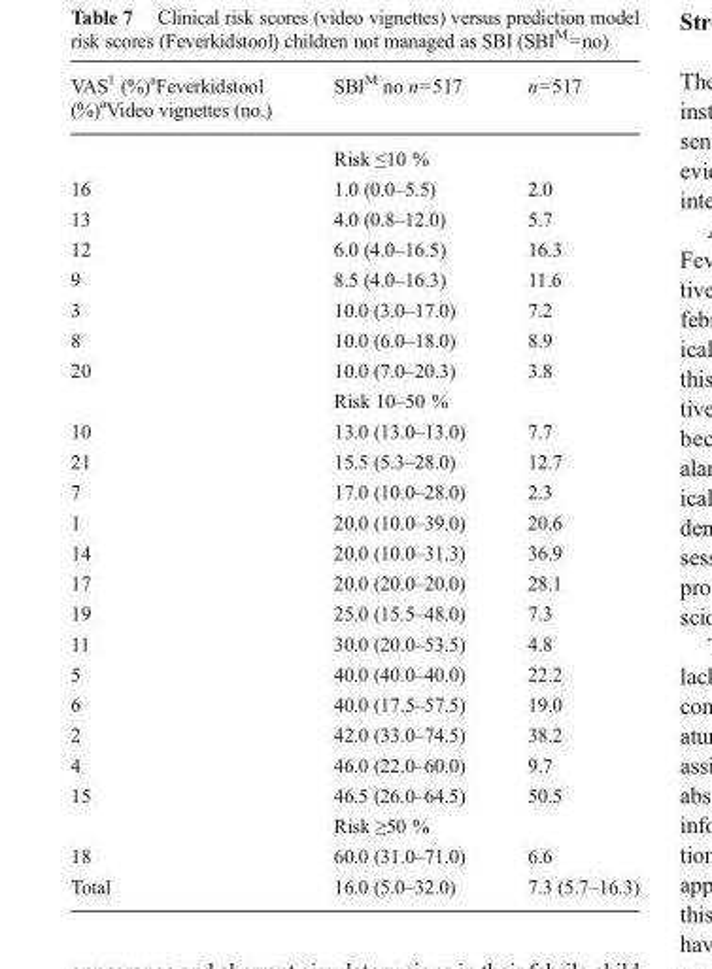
<table><thead><tr><td>VAS<sup>1</sup> (%)<sup>a</sup>Feverkidstool (%)<sup>a</sup>Video vignettes (no.)</td><td>SBI<sup>M</sup> no n=517</td><td>n=517</td></tr></thead><tbody><tr><td></td><td>Risk ≤10 %</td><td></td></tr><tr><td>16</td><td>1.0 (0.0–5.5)</td><td>2.0</td></tr><tr><td>13</td><td>4.0 (0.8–12.0)</td><td>5.7</td></tr><tr><td>12</td><td>6.0 (4.0–16.5)</td><td>16.3</td></tr><tr><td>9</td><td>8.5 (4.0–16.3)</td><td>11.6</td></tr><tr><td>3</td><td>10.0 (3.0–17.0)</td><td>7.2</td></tr><tr><td>8</td><td>10.0 (6.0–18.0)</td><td>8.9</td></tr><tr><td rowspan="2">20</td><td>10.0 (7.0–20.3)</td><td>3.8</td></tr><tr><td>Risk 10–50 %</td><td></td></tr><tr><td>10</td><td>13.0 (13.0–13.0)</td><td>7.7</td></tr><tr><td>21</td><td>15.5 (5.3–28.0)</td><td>12.7</td></tr><tr><td>7</td><td>17.0 (10.0–28.0)</td><td>2.3</td></tr><tr><td>1</td><td>20.0 (10.0–39.0)</td><td>20.6</td></tr><tr><td>14</td><td>20.0 (10.0–31.3)</td><td>36.9</td></tr><tr><td>17</td><td>20.0 (20.0–20.0)</td><td>28.1</td></tr><tr><td>19</td><td>25.0 (15.5–48.0)</td><td>7.3</td></tr><tr><td>11</td><td>30.0 (20.0–53.5)</td><td>4.8</td></tr><tr><td>5</td><td>40.0 (40.0–40.0)</td><td>22.2</td></tr><tr><td>6</td><td>40.0 (17.5–57.5)</td><td>19.0</td></tr><tr><td>2</td><td>42.0 (33.0–74.5)</td><td>38.2</td></tr><tr><td>4</td><td>46.0 (22.0–60.0)</td><td>9.7</td></tr><tr><td rowspan="2">15</td><td>46.5 (26.0–64.5)</td><td>50.5</td></tr><tr><td>Risk ≥50 %</td><td></td></tr><tr><td>18</td><td>60.0 (31.0–71.0)</td><td>6.6</td></tr><tr><td>Total</td><td>16.0 (5.0–32.0)</td><td>7.3 (5.7–16.3)</td></tr></tbody></table>